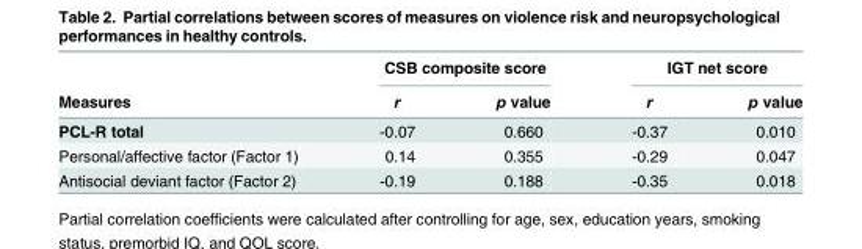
<table><thead><tr><td rowspan="2">Measures</td><td colspan="2">CSB composite score</td><td colspan="2">IGT net score</td></tr><tr><td>r</td><td>p value</td><td>r</td><td>p value</td></tr></thead><tbody><tr><td>PCL-R total</td><td>-0.07</td><td>0.660</td><td>-0.37</td><td>0.010</td></tr><tr><td>Personal/affective factor (Factor 1)</td><td>0.14</td><td>0.355</td><td>-0.29</td><td>0.047</td></tr><tr><td>Antisocial deviant factor (Factor 2)</td><td>-0.19</td><td>0.188</td><td>-0.35</td><td>0.018</td></tr></tbody></table>